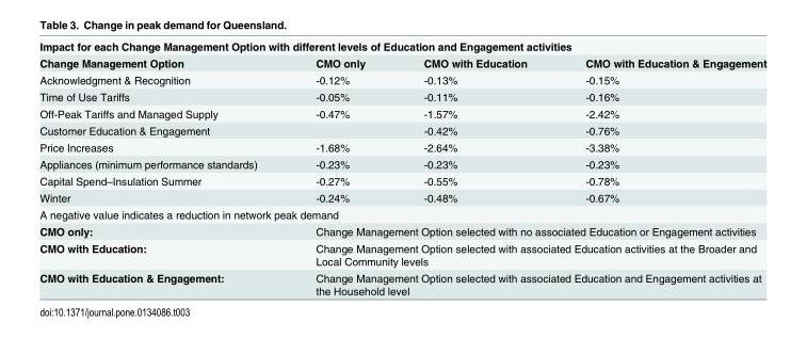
<table><tbody><tr><td colspan="4">Impact for each Change Management Option with different levels of Education and Engagement activities</td></tr><tr><td>Change Management Option</td><td>CMO only</td><td>CMO with Education</td><td>CMO with Education &amp; Engagement</td></tr><tr><td>Acknowledgment &amp; Recognition</td><td>-0.12%</td><td>-0.13%</td><td>-0.15%</td></tr><tr><td>Time of Use Tariffs</td><td>-0.05%</td><td>-0.11%</td><td>-0.16%</td></tr><tr><td>Off-Peak Tariffs and Managed Supply</td><td>-0.47%</td><td>-1.57%</td><td>-2.42%</td></tr><tr><td>Customer Education &amp; Engagement</td><td></td><td>-0.42%</td><td>-0.76%</td></tr><tr><td>Price Increases</td><td>-1.68%</td><td>-2.64%</td><td>-3.38%</td></tr><tr><td>Appliances (minimum performance standards)</td><td>-0.23%</td><td>-0.23%</td><td>-0.23%</td></tr><tr><td>Capital Spend–Insulation Summer</td><td>-0.27%</td><td>-0.55%</td><td>-0.78%</td></tr><tr><td>Winter</td><td>-0.24%</td><td>-0.48%</td><td>-0.67%</td></tr><tr><td colspan="4">A negative value indicates a reduction in network peak demand</td></tr><tr><td>CMO only:</td><td colspan="3">Change Management Option selected with no associated Education or Engagement activities</td></tr><tr><td>CMO with Education:</td><td colspan="3">Change Management Option selected with associated Education activities at the Broader and Local Community levels</td></tr><tr><td>CMO with Education &amp; Engagement:</td><td colspan="3">Change Management Option selected with associated Education and Engagement activities at the Household level</td></tr></tbody></table>